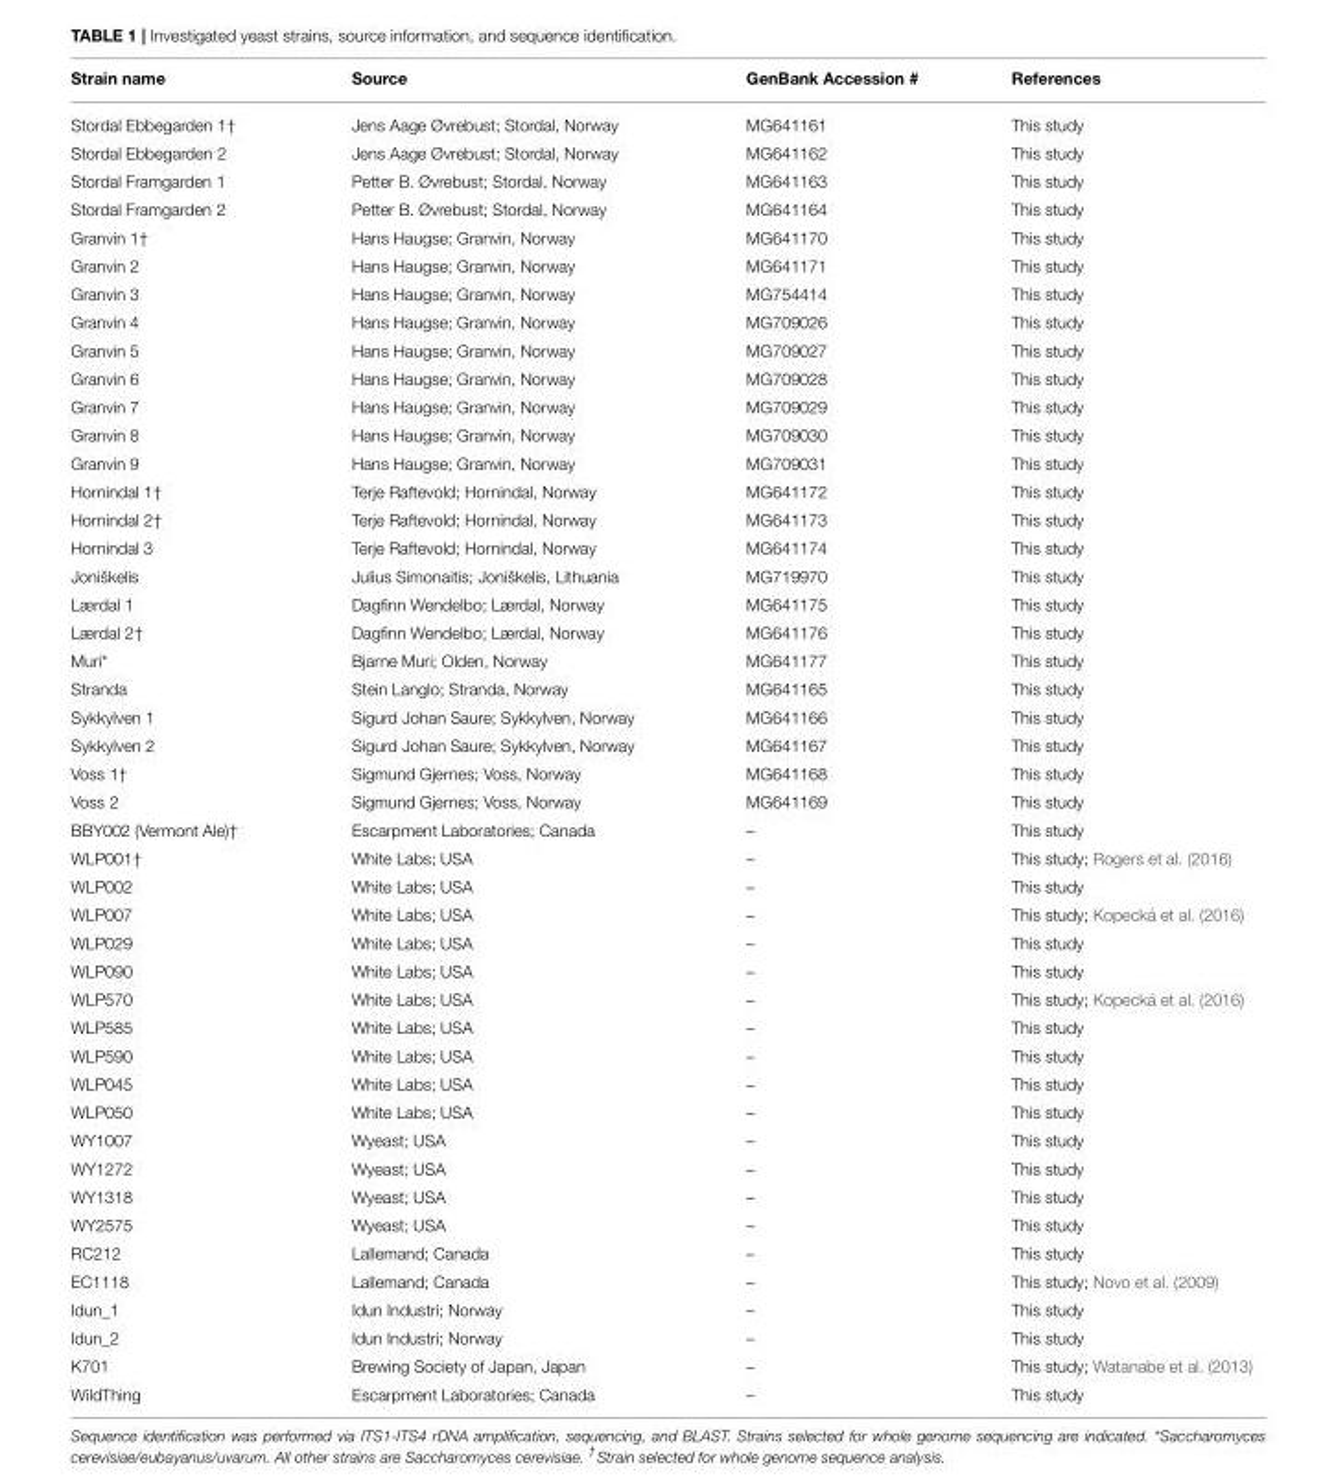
<table><thead><tr><td>Strain name</td><td>Source</td><td>GenBank Accession #</td><td>References</td></tr></thead><tbody><tr><td>Stordal Ebbegarden 1<sup>†</sup></td><td>Jens Aage Øvrebust; Stordal, Norway</td><td>MG641161</td><td>This study</td></tr><tr><td>Stordal Ebbegarden 2</td><td>Jens Aage Øvrebust; Stordal, Norway</td><td>MG641162</td><td>This study</td></tr><tr><td>Stordal Framgarden 1</td><td>Petter B. Øvrebust; Stordal, Norway</td><td>MG641163</td><td>This study</td></tr><tr><td>Stordal Framgarden 2</td><td>Petter B. Øvrebust; Stordal, Norway</td><td>MG641164</td><td>This study</td></tr><tr><td>Granvin 1<sup>†</sup></td><td>Hans Haugse; Granvin, Norway</td><td>MG641170</td><td>This study</td></tr><tr><td>Granvin 2</td><td>Hans Haugse; Granvin, Norway</td><td>MG641171</td><td>This study</td></tr><tr><td>Granvin 3</td><td>Hans Haugse; Granvin, Norway</td><td>MG754414</td><td>This study</td></tr><tr><td>Granvin 4</td><td>Hans Haugse; Granvin, Norway</td><td>MG709026</td><td>This study</td></tr><tr><td>Granvin 5</td><td>Hans Haugse; Granvin, Norway</td><td>MG709027</td><td>This study</td></tr><tr><td>Granvin 6</td><td>Hans Haugse; Granvin, Norway</td><td>MG709028</td><td>This study</td></tr><tr><td>Granvin 7</td><td>Hans Haugse; Granvin, Norway</td><td>MG709029</td><td>This study</td></tr><tr><td>Granvin 8</td><td>Hans Haugse; Granvin, Norway</td><td>MG709030</td><td>This study</td></tr><tr><td>Granvin 9</td><td>Hans Haugse; Granvin, Norway</td><td>MG709031</td><td>This study</td></tr><tr><td>Hornindal 1<sup>†</sup></td><td>Terje Raftevold; Hornindal, Norway</td><td>MG641172</td><td>This study</td></tr><tr><td>Hornindal 2<sup>†</sup></td><td>Terje Raftevold; Hornindal, Norway</td><td>MG641173</td><td>This study</td></tr><tr><td>Hornindal 3</td><td>Terje Raftevold; Hornindal, Norway</td><td>MG641174</td><td>This study</td></tr><tr><td>Joniškelis</td><td>Julius Simonaitis; Joniškelis, Lithuania</td><td>MG719970</td><td>This study</td></tr><tr><td>Lærdal 1</td><td>Dagfinn Wendelbo; Lærdal, Norway</td><td>MG641175</td><td>This study</td></tr><tr><td>Lærdal 2<sup>†</sup></td><td>Dagfinn Wendelbo; Lærdal, Norway</td><td>MG641176</td><td>This study</td></tr><tr><td>Muri*</td><td>Bjarne Muri; Olden, Norway</td><td>MG641177</td><td>This study</td></tr><tr><td>Stranda</td><td>Stein Langlo; Stranda, Norway</td><td>MG641165</td><td>This study</td></tr><tr><td>Sykkylven 1</td><td>Sigurd Johan Saure; Sykkylven, Norway</td><td>MG641166</td><td>This study</td></tr><tr><td>Sykkylven 2</td><td>Sigurd Johan Saure; Sykkylven, Norway</td><td>MG641167</td><td>This study</td></tr><tr><td>Voss 1<sup>†</sup></td><td>Sigmund Gjernes; Voss, Norway</td><td>MG641168</td><td>This study</td></tr><tr><td>Voss 2</td><td>Sigmund Gjernes; Voss, Norway</td><td>MG641169</td><td>This study</td></tr><tr><td>BBY002 (Vermont Ale)<sup>†</sup></td><td>Escarpment Laboratories; Canada</td><td>–</td><td>This study</td></tr><tr><td>WLP001<sup>†</sup></td><td>White Labs; USA</td><td>–</td><td>This study; Rogers et al. (2016)</td></tr><tr><td>WLP002</td><td>White Labs; USA</td><td>–</td><td>This study</td></tr><tr><td>WLP007</td><td>White Labs; USA</td><td>–</td><td>This study; Kopecká et al. (2016)</td></tr><tr><td>WLP029</td><td>White Labs; USA</td><td>–</td><td>This study</td></tr><tr><td>WLP090</td><td>White Labs; USA</td><td>–</td><td>This study</td></tr><tr><td>WLP570</td><td>White Labs; USA</td><td>–</td><td>This study; Kopecká et al. (2016)</td></tr><tr><td>WLP585</td><td>White Labs; USA</td><td>–</td><td>This study</td></tr><tr><td>WLP590</td><td>White Labs; USA</td><td>–</td><td>This study</td></tr><tr><td>WLP045</td><td>White Labs; USA</td><td>–</td><td>This study</td></tr><tr><td>WLP050</td><td>White Labs; USA</td><td>–</td><td>This study</td></tr><tr><td>WY1007</td><td>Wyeast; USA</td><td>–</td><td>This study</td></tr><tr><td>WY1272</td><td>Wyeast; USA</td><td>–</td><td>This study</td></tr><tr><td>WY1318</td><td>Wyeast; USA</td><td>–</td><td>This study</td></tr><tr><td>WY2575</td><td>Wyeast; USA</td><td>–</td><td>This study</td></tr><tr><td>RC212</td><td>Lallemand; Canada</td><td>–</td><td>This study</td></tr><tr><td>EC1118</td><td>Lallemand; Canada</td><td>–</td><td>This study; Novo et al. (2009)</td></tr><tr><td>Idun_1</td><td>Idun Industri; Norway</td><td>–</td><td>This study</td></tr><tr><td>Idun_2</td><td>Idun Industri; Norway</td><td>–</td><td>This study</td></tr><tr><td>K701</td><td>Brewing Society of Japan, Japan</td><td>–</td><td>This study; Watanabe et al. (2013)</td></tr><tr><td>WildThing</td><td>Escarpment Laboratories; Canada</td><td>–</td><td>This study</td></tr></tbody></table>